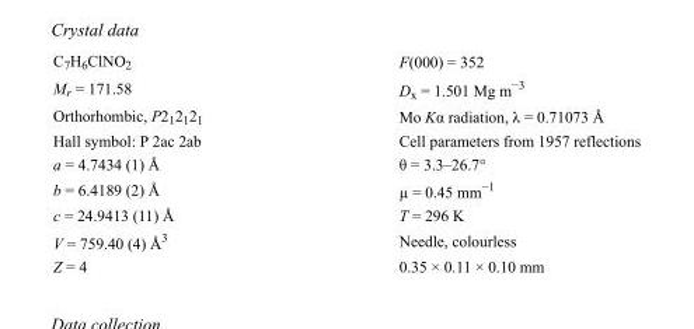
<table><tbody><tr><td>C<sub>7</sub>H<sub>6</sub>ClNO<sub>2</sub></td><td>F(000) = 352</td></tr><tr><td>M<sub>r</sub> = 171.58</td><td>D<sub>x</sub> = 1.501 Mg m<sup>−3</sup></td></tr><tr><td>Orthorhombic, P2<sub>1</sub>2<sub>1</sub>2<sub>1</sub></td><td>Mo Kα radiation, λ = 0.71073 Å</td></tr><tr><td>Hall symbol: P 2ac 2ab</td><td>Cell parameters from 1957 reflections</td></tr><tr><td>a = 4.7434 (1) Å</td><td>θ = 3.3–26.7°</td></tr><tr><td>b = 6.4189 (2) Å</td><td>µ = 0.45 mm<sup>−1</sup></td></tr><tr><td>c = 24.9413 (11) Å</td><td>T = 296 K</td></tr><tr><td>V = 759.40 (4) Å<sup>3</sup></td><td>Needle, colourless</td></tr><tr><td>Z = 4</td><td>0.35 × 0.11 × 0.10 mm</td></tr></tbody></table>